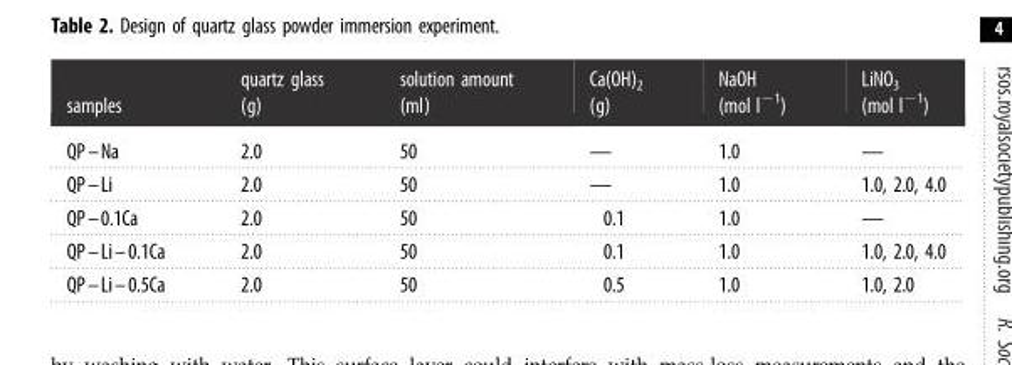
<table><thead><tr><td>samples</td><td>quartz glass (g)</td><td>solution amount (ml)</td><td>Ca(OH)<sub>2</sub> (g)</td><td>NaOH (mol l<sup>−1</sup>)</td><td>LiNO<sub>3</sub> (mol l<sup>−1</sup>)</td></tr></thead><tbody><tr><td>QP–Na</td><td>2.0</td><td>50</td><td>—</td><td>1.0</td><td>—</td></tr><tr><td>QP–Li</td><td>2.0</td><td>50</td><td>—</td><td>1.0</td><td>1.0, 2.0, 4.0</td></tr><tr><td>QP–0.1Ca</td><td>2.0</td><td>50</td><td>0.1</td><td>1.0</td><td>—</td></tr><tr><td>QP–Li–0.1Ca</td><td>2.0</td><td>50</td><td>0.1</td><td>1.0</td><td>1.0, 2.0, 4.0</td></tr><tr><td>QP–Li–0.5Ca</td><td>2.0</td><td>50</td><td>0.5</td><td>1.0</td><td>1.0, 2.0</td></tr></tbody></table>